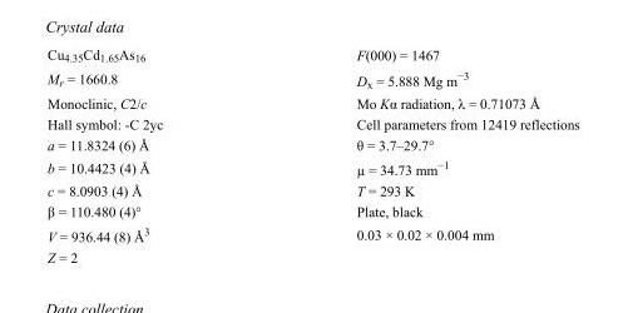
<table><tbody><tr><td>Cu<sub>4.35</sub>Cd<sub>1.65</sub>As<sub>16</sub></td><td>F(000) = 1467</td></tr><tr><td>M<sub>r</sub> = 1660.8</td><td>D<sub>x</sub> = 5.888 Mg m<sup>−3</sup></td></tr><tr><td>Monoclinic, C2/c</td><td>Mo Kα radiation, λ = 0.71073 Å</td></tr><tr><td>Hall symbol: -C 2yc</td><td>Cell parameters from 12419 reflections</td></tr><tr><td>a = 11.8324 (6) Å</td><td>θ = 3.7–29.7°</td></tr><tr><td>b = 10.4423 (4) Å</td><td>µ = 34.73 mm<sup>−1</sup></td></tr><tr><td>c = 8.0903 (4) Å</td><td>T = 293 K</td></tr><tr><td>β = 110.480 (4)°</td><td>Plate, black</td></tr><tr><td>V = 936.44 (8) Å<sup>3</sup></td><td>0.03 × 0.02 × 0.004 mm</td></tr><tr><td>Z = 2</td><td></td></tr></tbody></table>